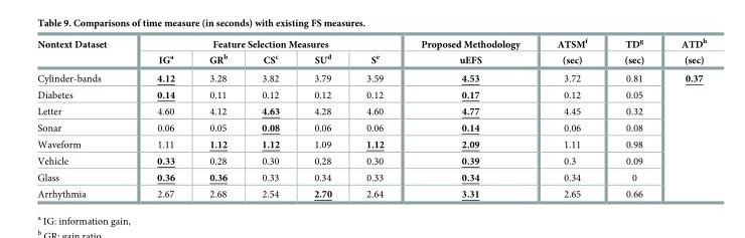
<table><thead><tr><td rowspan="2">Nontext Dataset</td><td colspan="5">Feature Selection Measures</td><td rowspan="2">Proposed Methodology uEFS</td><td rowspan="2">ATSM<sup>f</sup> (sec)</td><td rowspan="2">TD<sup>g</sup> (sec)</td><td rowspan="2">ATD<sup>h</sup> (sec)</td></tr><tr><td>IG<sup>a</sup></td><td>GR<sup>b</sup></td><td>CS<sup>c</sup></td><td>SU<sup>d</sup></td><td>S<sup>e</sup></td></tr></thead><tbody><tr><td>Cylinder-bands</td><td>4.12</td><td>3.28</td><td>3.82</td><td>3.79</td><td>3.59</td><td>4.53</td><td>3.72</td><td>0.81</td><td rowspan="8">0.37</td></tr><tr><td>Diabetes</td><td>0.14</td><td>0.11</td><td>0.12</td><td>0.12</td><td>0.12</td><td>0.17</td><td>0.12</td><td>0.05</td></tr><tr><td>Letter</td><td>4.60</td><td>4.12</td><td>4.63</td><td>4.28</td><td>4.60</td><td>4.77</td><td>4.45</td><td>0.32</td></tr><tr><td>Sonar</td><td>0.06</td><td>0.05</td><td>0.08</td><td>0.06</td><td>0.06</td><td>0.14</td><td>0.06</td><td>0.08</td></tr><tr><td>Waveform</td><td>1.11</td><td>1.12</td><td>1.12</td><td>1.09</td><td>1.12</td><td>2.09</td><td>1.11</td><td>0.98</td></tr><tr><td>Vehicle</td><td>0.33</td><td>0.28</td><td>0.30</td><td>0.28</td><td>0.30</td><td>0.39</td><td>0.3</td><td>0.09</td></tr><tr><td>Glass</td><td>0.36</td><td>0.36</td><td>0.33</td><td>0.34</td><td>0.33</td><td>0.34</td><td>0.34</td><td>0</td></tr><tr><td>Arrhythmia</td><td>2.67</td><td>2.68</td><td>2.54</td><td>2.70</td><td>2.64</td><td>3.31</td><td>2.65</td><td>0.66</td></tr></tbody></table>